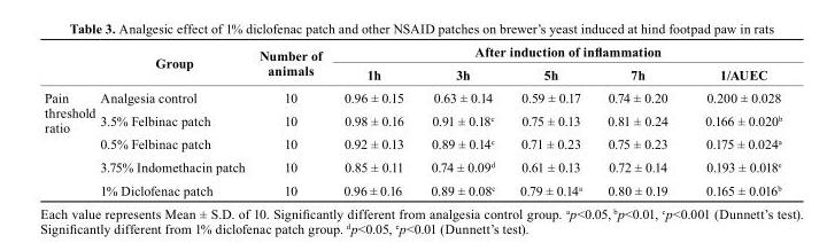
<table><thead><tr><td rowspan="2"></td><td rowspan="2">Group</td><td rowspan="2">Number of animals</td><td colspan="5">After induction of inflammation</td></tr><tr><td>1h</td><td>3h</td><td>5h</td><td>7h</td><td>1/AUEC</td></tr></thead><tbody><tr><td rowspan="5">Pain threshold ratio</td><td>Analgesia control</td><td>10</td><td>0.96 ± 0.15</td><td>0.63 ± 0.14</td><td>0.59 ± 0.17</td><td>0.74 ± 0.20</td><td>0.200 ± 0.028</td></tr><tr><td>3.5% Felbinac patch</td><td>10</td><td>0.98 ± 0.16</td><td>0.91 ± 0.18<sup>c</sup></td><td>0.75 ± 0.13</td><td>0.81 ± 0.24</td><td>0.166 ± 0.020<sup>b</sup></td></tr><tr><td>0.5% Felbinac patch</td><td>10</td><td>0.92 ± 0.13</td><td>0.89 ± 0.14<sup>c</sup></td><td>0.71 ± 0.23</td><td>0.75 ± 0.23</td><td>0.175 ± 0.024<sup>a</sup></td></tr><tr><td>3.75% Indomethacin patch</td><td>10</td><td>0.85 ± 0.11</td><td>0.74 ± 0.09<sup>d</sup></td><td>0.61 ± 0.13</td><td>0.72 ± 0.14</td><td>0.193 ± 0.018<sup>e</sup></td></tr><tr><td>1% Diclofenac patch</td><td>10</td><td>0.96 ± 0.16</td><td>0.89 ± 0.08<sup>c</sup></td><td>0.79 ± 0.14<sup>a</sup></td><td>0.80 ± 0.19</td><td>0.165 ± 0.016<sup>b</sup></td></tr></tbody></table>